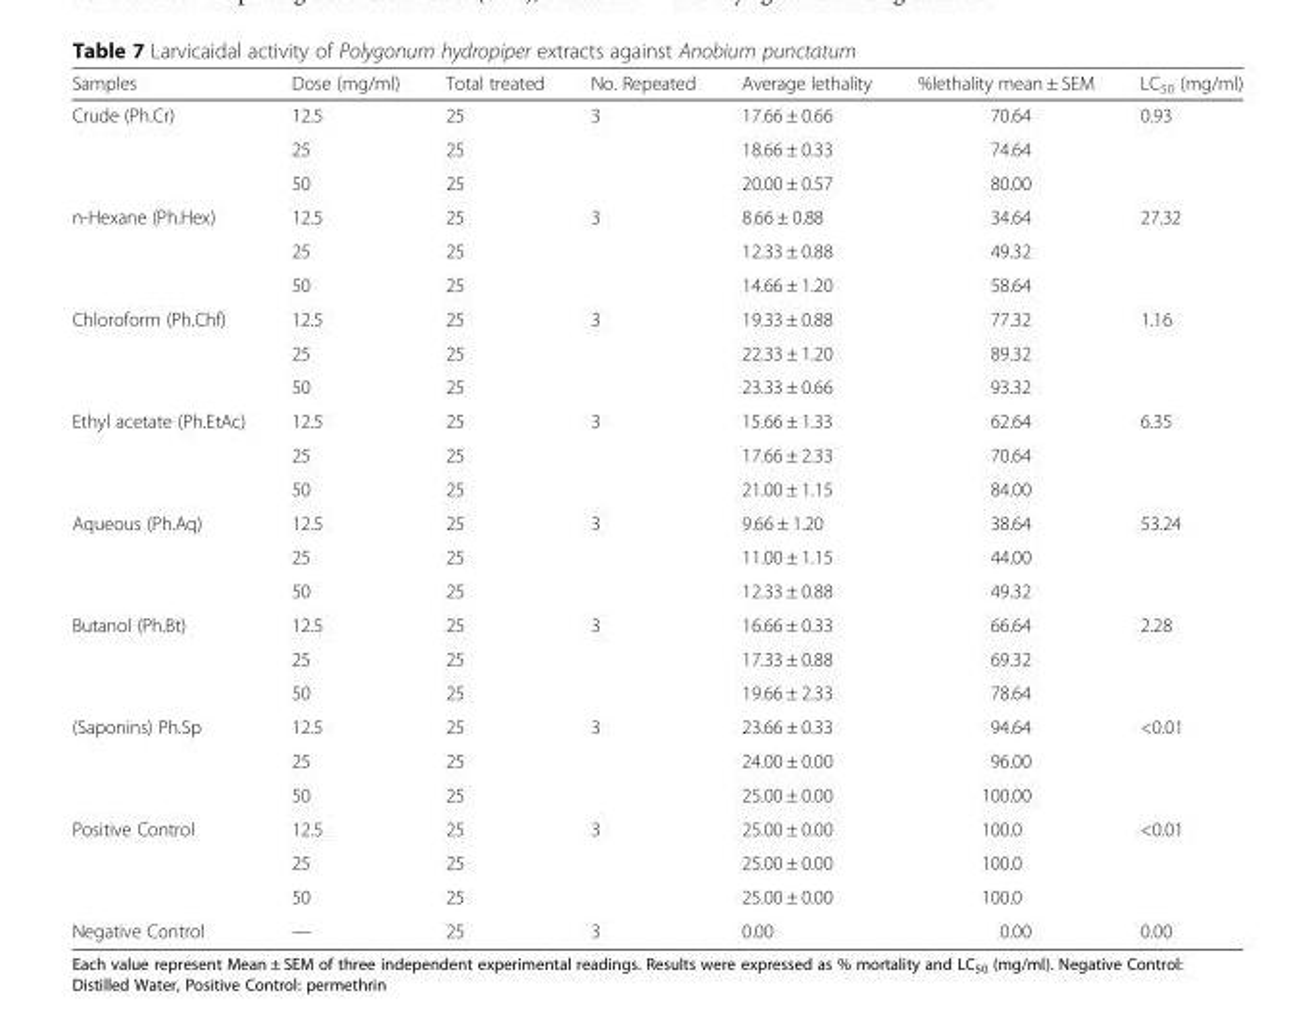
<table><thead><tr><td>Samples</td><td>Dose (mg/ml)</td><td>Total treated</td><td>No. Repeated</td><td>Average lethality</td><td>%lethality mean ± SEM</td><td>LC<sub>50</sub> (mg/ml)</td></tr></thead><tbody><tr><td rowspan="3">Crude (Ph.Cr)</td><td>12.5</td><td>25</td><td rowspan="3">3</td><td>17.66 ± 0.66</td><td>70.64</td><td rowspan="3">0.93</td></tr><tr><td>25</td><td>25</td><td>18.66 ± 0.33</td><td>74.64</td></tr><tr><td>50</td><td>25</td><td>20.00 ± 0.57</td><td>80.00</td></tr><tr><td rowspan="3">n-Hexane (Ph.Hex)</td><td>12.5</td><td>25</td><td rowspan="3">3</td><td>8.66 ± 0.88</td><td>34.64</td><td rowspan="3">27.32</td></tr><tr><td>25</td><td>25</td><td>12.33 ± 0.88</td><td>49.32</td></tr><tr><td>50</td><td>25</td><td>14.66 ± 1.20</td><td>58.64</td></tr><tr><td rowspan="3">Chloroform (Ph.Chf)</td><td>12.5</td><td>25</td><td rowspan="3">3</td><td>19.33 ± 0.88</td><td>77.32</td><td rowspan="3">1.16</td></tr><tr><td>25</td><td>25</td><td>22.33 ± 1.20</td><td>89.32</td></tr><tr><td>50</td><td>25</td><td>23.33 ± 0.66</td><td>93.32</td></tr><tr><td rowspan="3">Ethyl acetate (Ph.EtAc)</td><td>12.5</td><td>25</td><td rowspan="3">3</td><td>15.66 ± 1.33</td><td>62.64</td><td rowspan="3">6.35</td></tr><tr><td>25</td><td>25</td><td>17.66 ± 2.33</td><td>70.64</td></tr><tr><td>50</td><td>25</td><td>21.00 ± 1.15</td><td>84.00</td></tr><tr><td rowspan="3">Aqueous (Ph.Aq)</td><td>12.5</td><td>25</td><td rowspan="3">3</td><td>9.66 ± 1.20</td><td>38.64</td><td rowspan="3">53.24</td></tr><tr><td>25</td><td>25</td><td>11.00 ± 1.15</td><td>44.00</td></tr><tr><td>50</td><td>25</td><td>12.33 ± 0.88</td><td>49.32</td></tr><tr><td rowspan="3">Butanol (Ph.Bt)</td><td>12.5</td><td>25</td><td rowspan="3">3</td><td>16.66 ± 0.33</td><td>66.64</td><td rowspan="3">2.28</td></tr><tr><td>25</td><td>25</td><td>17.33 ± 0.88</td><td>69.32</td></tr><tr><td>50</td><td>25</td><td>19.66 ± 2.33</td><td>78.64</td></tr><tr><td rowspan="3">(Saponins) Ph.Sp</td><td>12.5</td><td>25</td><td rowspan="3">3</td><td>23.66 ± 0.33</td><td>94.64</td><td rowspan="3">&lt;0.01</td></tr><tr><td>25</td><td>25</td><td>24.00 ± 0.00</td><td>96.00</td></tr><tr><td>50</td><td>25</td><td>25.00 ± 0.00</td><td>100.00</td></tr><tr><td rowspan="3">Positive Control</td><td>12.5</td><td>25</td><td rowspan="3">3</td><td>25.00 ± 0.00</td><td>100.0</td><td rowspan="3">&lt;0.01</td></tr><tr><td>25</td><td>25</td><td>25.00 ± 0.00</td><td>100.0</td></tr><tr><td>50</td><td>25</td><td>25.00 ± 0.00</td><td>100.0</td></tr><tr><td>Negative Control</td><td>—</td><td>25</td><td>3</td><td>0.00</td><td>0.00</td><td>0.00</td></tr></tbody></table>